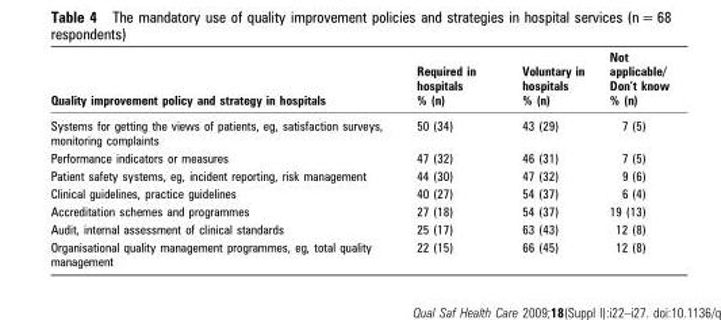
<table><thead><tr><td>Quality improvement policy and strategy in hospitals</td><td>Required in hospitals % (n)</td><td>Voluntary in hospitals % (n)</td><td>Not applicable/ Don’t know % (n)</td></tr></thead><tbody><tr><td>Systems for getting the views of patients, eg, satisfaction surveys, monitoring complaints</td><td>50 (34)</td><td>43 (29)</td><td>7 (5)</td></tr><tr><td>Performance indicators or measures</td><td>47 (32)</td><td>46 (31)</td><td>7 (5)</td></tr><tr><td>Patient safety systems, eg, incident reporting, risk management</td><td>44 (30)</td><td>47 (32)</td><td>9 (6)</td></tr><tr><td>Clinical guidelines, practice guidelines</td><td>40 (27)</td><td>54 (37)</td><td>6 (4)</td></tr><tr><td>Accreditation schemes and programmes</td><td>27 (18)</td><td>54 (37)</td><td>19 (13)</td></tr><tr><td>Audit, internal assessment of clinical standards</td><td>25 (17)</td><td>63 (43)</td><td>12 (8)</td></tr><tr><td>Organisational quality management programmes, eg, total quality management</td><td>22 (15)</td><td>66 (45)</td><td>12 (8)</td></tr></tbody></table>